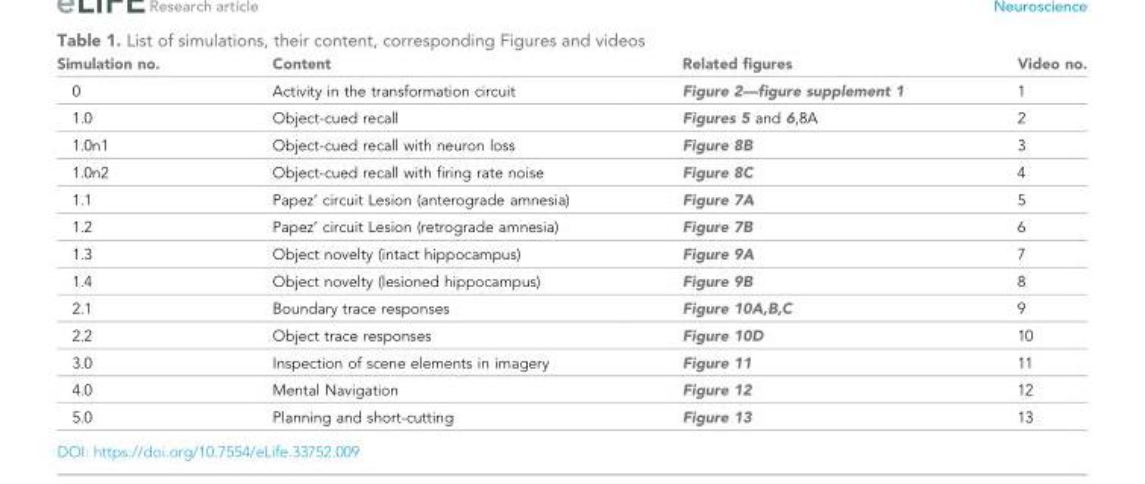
<table><thead><tr><td>Simulation no.</td><td>Content</td><td>Related figures</td><td>Video no.</td></tr></thead><tbody><tr><td>0</td><td>Activity in the transformation circuit</td><td>Figure 2—figure supplement 1</td><td>1</td></tr><tr><td>1.0</td><td>Object-cued recall</td><td>Figures 5 and 6,8A</td><td>2</td></tr><tr><td>1.0n1</td><td>Object-cued recall with neuron loss</td><td>Figure 8B</td><td>3</td></tr><tr><td>1.0n2</td><td>Object-cued recall with firing rate noise</td><td>Figure 8C</td><td>4</td></tr><tr><td>1.1</td><td>Papez’ circuit Lesion (anterograde amnesia)</td><td>Figure 7A</td><td>5</td></tr><tr><td>1.2</td><td>Papez’ circuit Lesion (retrograde amnesia)</td><td>Figure 7B</td><td>6</td></tr><tr><td>1.3</td><td>Object novelty (intact hippocampus)</td><td>Figure 9A</td><td>7</td></tr><tr><td>1.4</td><td>Object novelty (lesioned hippocampus)</td><td>Figure 9B</td><td>8</td></tr><tr><td>2.1</td><td>Boundary trace responses</td><td>Figure 10A,B,C</td><td>9</td></tr><tr><td>2.2</td><td>Object trace responses</td><td>Figure 10D</td><td>10</td></tr><tr><td>3.0</td><td>Inspection of scene elements in imagery</td><td>Figure 11</td><td>11</td></tr><tr><td>4.0</td><td>Mental Navigation</td><td>Figure 12</td><td>12</td></tr><tr><td>5.0</td><td>Planning and short-cutting</td><td>Figure 13</td><td>13</td></tr></tbody></table>